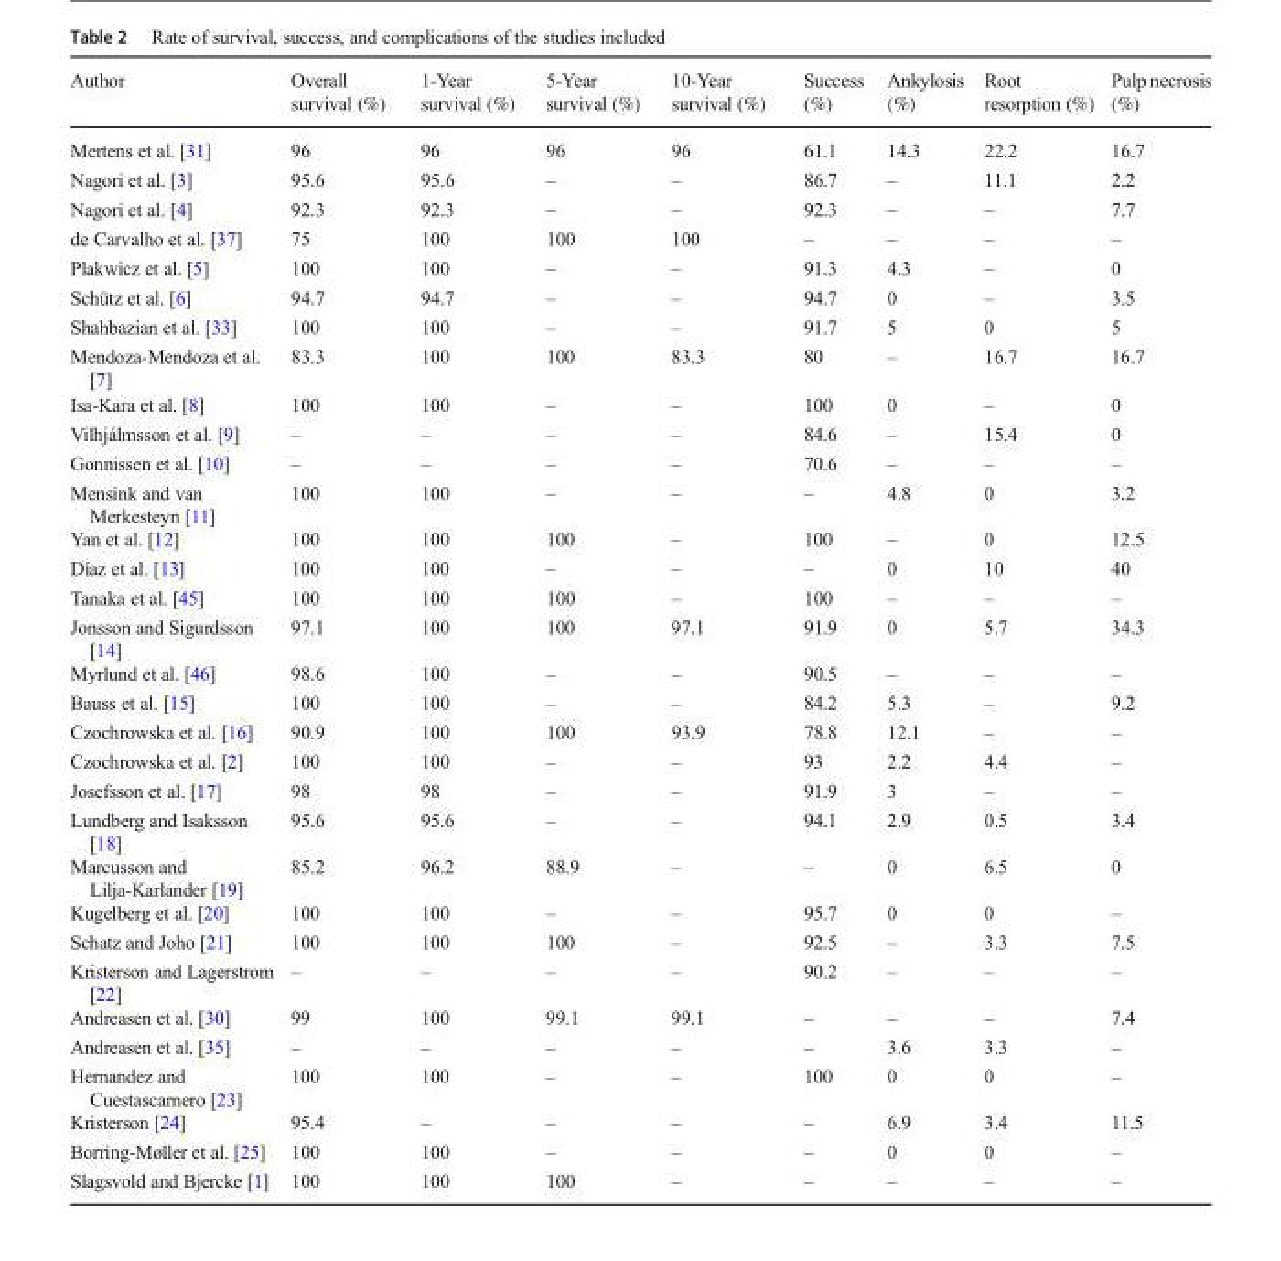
<table><thead><tr><td>Author</td><td>Overall survival (%)</td><td>1-Year survival (%)</td><td>5-Year survival (%)</td><td>10-Year survival (%)</td><td>Success (%)</td><td>Ankylosis (%)</td><td>Root resorption (%)</td><td>Pulp necrosis (%)</td></tr></thead><tbody><tr><td>Mertens et al. [31]</td><td>96</td><td>96</td><td>96</td><td>96</td><td>61.1</td><td>14.3</td><td>22.2</td><td>16.7</td></tr><tr><td>Nagori et al. [3]</td><td>95.6</td><td>95.6</td><td>–</td><td>–</td><td>86.7</td><td>–</td><td>11.1</td><td>2.2</td></tr><tr><td>Nagori et al. [4]</td><td>92.3</td><td>92.3</td><td>–</td><td>–</td><td>92.3</td><td>–</td><td>–</td><td>7.7</td></tr><tr><td>de Carvalho et al. [37]</td><td>75</td><td>100</td><td>100</td><td>100</td><td>–</td><td>–</td><td>–</td><td>–</td></tr><tr><td>Plakwicz et al. [5]</td><td>100</td><td>100</td><td>–</td><td>–</td><td>91.3</td><td>4.3</td><td>–</td><td>0</td></tr><tr><td>Schütz et al. [6]</td><td>94.7</td><td>94.7</td><td>–</td><td>–</td><td>94.7</td><td>0</td><td>–</td><td>3.5</td></tr><tr><td>Shahbazian et al. [33]</td><td>100</td><td>100</td><td>–</td><td>–</td><td>91.7</td><td>5</td><td>0</td><td>5</td></tr><tr><td>Mendoza-Mendoza et al. [7]</td><td>83.3</td><td>100</td><td>100</td><td>83.3</td><td>80</td><td>–</td><td>16.7</td><td>16.7</td></tr><tr><td>Isa-Kara et al. [8]</td><td>100</td><td>100</td><td>–</td><td>–</td><td>100</td><td>0</td><td>–</td><td>0</td></tr><tr><td>Vilhjálmsson et al. [9]</td><td>–</td><td>–</td><td>–</td><td>–</td><td>84.6</td><td>–</td><td>15.4</td><td>0</td></tr><tr><td>Gonnissen et al. [10]</td><td>–</td><td>–</td><td>–</td><td>–</td><td>70.6</td><td>–</td><td>–</td><td>–</td></tr><tr><td>Mensink and van Merkesteyn [11]</td><td>100</td><td>100</td><td>–</td><td>–</td><td>–</td><td>4.8</td><td>0</td><td>3.2</td></tr><tr><td>Yan et al. [12]</td><td>100</td><td>100</td><td>100</td><td>–</td><td>100</td><td>–</td><td>0</td><td>12.5</td></tr><tr><td>Díaz et al. [13]</td><td>100</td><td>100</td><td>–</td><td>–</td><td>–</td><td>0</td><td>10</td><td>40</td></tr><tr><td>Tanaka et al. [45]</td><td>100</td><td>100</td><td>100</td><td>–</td><td>100</td><td>–</td><td>–</td><td>–</td></tr><tr><td>Jonsson and Sigurdsson [14]</td><td>97.1</td><td>100</td><td>100</td><td>97.1</td><td>91.9</td><td>0</td><td>5.7</td><td>34.3</td></tr><tr><td>Myrlund et al. [46]</td><td>98.6</td><td>100</td><td>–</td><td>–</td><td>90.5</td><td>–</td><td>–</td><td>–</td></tr><tr><td>Bauss et al. [15]</td><td>100</td><td>100</td><td>–</td><td>–</td><td>84.2</td><td>5.3</td><td>–</td><td>9.2</td></tr><tr><td>Czochrowska et al. [16]</td><td>90.9</td><td>100</td><td>100</td><td>93.9</td><td>78.8</td><td>12.1</td><td>–</td><td>–</td></tr><tr><td>Czochrowska et al. [2]</td><td>100</td><td>100</td><td>–</td><td>–</td><td>93</td><td>2.2</td><td>4.4</td><td>–</td></tr><tr><td>Josefsson et al. [17]</td><td>98</td><td>98</td><td>–</td><td>–</td><td>91.9</td><td>3</td><td>–</td><td>–</td></tr><tr><td>Lundberg and Isaksson [18]</td><td>95.6</td><td>95.6</td><td>–</td><td>–</td><td>94.1</td><td>2.9</td><td>0.5</td><td>3.4</td></tr><tr><td>Marcusson and Lilja-Karlander [19]</td><td>85.2</td><td>96.2</td><td>88.9</td><td>–</td><td>–</td><td>0</td><td>6.5</td><td>0</td></tr><tr><td>Kugelberg et al. [20]</td><td>100</td><td>100</td><td>–</td><td>–</td><td>95.7</td><td>0</td><td>0</td><td>–</td></tr><tr><td>Schatz and Joho [21]</td><td>100</td><td>100</td><td>100</td><td>–</td><td>92.5</td><td>–</td><td>3.3</td><td>7.5</td></tr><tr><td>Kristerson and Lagerstrom [22]</td><td>–</td><td>–</td><td>–</td><td>–</td><td>90.2</td><td>–</td><td>–</td><td>–</td></tr><tr><td>Andreasen et al. [30]</td><td>99</td><td>100</td><td>99.1</td><td>99.1</td><td>–</td><td>–</td><td>–</td><td>7.4</td></tr><tr><td>Andreasen et al. [35]</td><td>–</td><td>–</td><td>–</td><td>–</td><td>–</td><td>3.6</td><td>3.3</td><td>–</td></tr><tr><td>Hernandez and Cuestascarnero [23]</td><td>100</td><td>100</td><td>–</td><td>–</td><td>100</td><td>0</td><td>0</td><td>–</td></tr><tr><td>Kristerson [24]</td><td>95.4</td><td>–</td><td>–</td><td>–</td><td>–</td><td>6.9</td><td>3.4</td><td>11.5</td></tr><tr><td>Borring-Møller et al. [25]</td><td>100</td><td>100</td><td>–</td><td>–</td><td>–</td><td>0</td><td>0</td><td>–</td></tr><tr><td>Slagsvold and Bjercke [1]</td><td>100</td><td>100</td><td>100</td><td>–</td><td>–</td><td>–</td><td>–</td><td>–</td></tr></tbody></table>